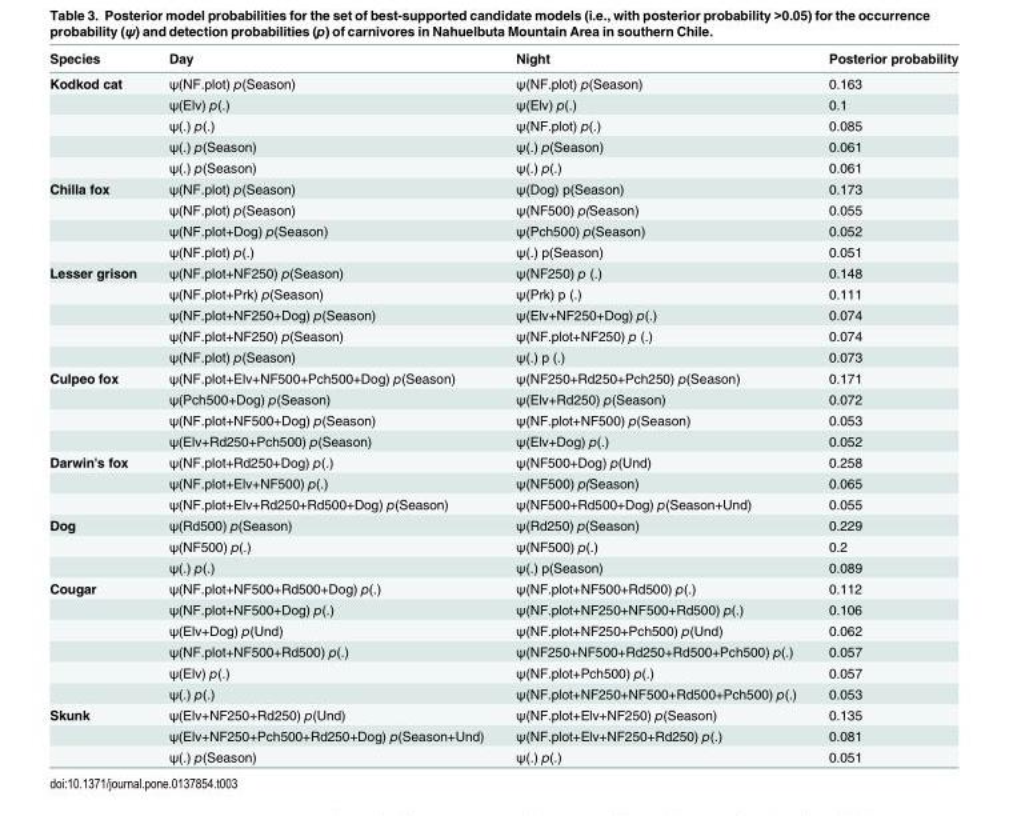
<table><thead><tr><td>Species</td><td>Day</td><td>Night</td><td>Posterior probability</td></tr></thead><tbody><tr><td rowspan="5">Kodkod cat</td><td>ψ(NF.plot) p(Season)</td><td>ψ(NF.plot) p(Season)</td><td>0.163</td></tr><tr><td>ψ(Elv) p(.)</td><td>ψ(Elv) p(.)</td><td>0.1</td></tr><tr><td>ψ(.) p(.)</td><td>ψ(NF.plot) p(.)</td><td>0.085</td></tr><tr><td>ψ(.) p(Season)</td><td>ψ(.) p(Season)</td><td>0.061</td></tr><tr><td>ψ(.) p(Season)</td><td>ψ(.) p(.)</td><td>0.061</td></tr><tr><td rowspan="4">Chilla fox</td><td>ψ(NF.plot) p(Season)</td><td>ψ(Dog) p(Season)</td><td>0.173</td></tr><tr><td>ψ(NF.plot) p(Season)</td><td>ψ(NF500) p(Season)</td><td>0.055</td></tr><tr><td>ψ(NF.plot+Dog) p(Season)</td><td>ψ(Pch500) p(Season)</td><td>0.052</td></tr><tr><td>ψ(NF.plot) p(.)</td><td>ψ(.) p(Season)</td><td>0.051</td></tr><tr><td rowspan="5">Lesser grison</td><td>ψ(NF.plot+NF250) p(Season)</td><td>ψ(NF250) p (.)</td><td>0.148</td></tr><tr><td>ψ(NF.plot+Prk) p(Season)</td><td>ψ(Prk) p (.)</td><td>0.111</td></tr><tr><td>ψ(NF.plot+NF250+Dog) p(Season)</td><td>ψ(Elv+NF250+Dog) p(.)</td><td>0.074</td></tr><tr><td>ψ(NF.plot+NF250) p(Season)</td><td>ψ(NF.plot+NF250) p (.)</td><td>0.074</td></tr><tr><td>ψ(NF.plot) p(Season)</td><td>ψ(.) p (.)</td><td>0.073</td></tr><tr><td rowspan="4">Culpeo fox</td><td>ψ(NF.plot+Elv+NF500+Pch500+Dog) p(Season)</td><td>ψ(NF250+Rd250+Pch250) p(Season)</td><td>0.171</td></tr><tr><td>ψ(Pch500+Dog) p(Season)</td><td>ψ(Elv+Rd250) p(Season)</td><td>0.072</td></tr><tr><td>ψ(NF.plot+NF500+Dog) p(Season)</td><td>ψ(NF.plot+NF500) p(Season)</td><td>0.053</td></tr><tr><td>ψ(Elv+Rd250+Pch500) p(Season)</td><td>ψ(Elv+Dog) p(.)</td><td>0.052</td></tr><tr><td rowspan="3">Darwin&#x27;s fox</td><td>ψ(NF.plot+Rd250+Dog) p(.)</td><td>ψ(NF500+Dog) p(Und)</td><td>0.258</td></tr><tr><td>ψ(NF.plot+Elv+NF500) p(.)</td><td>ψ(NF500) p(Season)</td><td>0.065</td></tr><tr><td>ψ(NF.plot+Elv+Rd250+Rd500+Dog) p(Season)</td><td>ψ(NF500+Rd500+Dog) p(Season+Und)</td><td>0.055</td></tr><tr><td rowspan="3">Dog</td><td>ψ(Rd500) p(Season)</td><td>ψ(Rd250) p(Season)</td><td>0.229</td></tr><tr><td>ψ(NF500) p(.)</td><td>ψ(NF500) p(.)</td><td>0.2</td></tr><tr><td>ψ(.) p(.)</td><td>ψ(.) p(Season)</td><td>0.089</td></tr><tr><td rowspan="6">Cougar</td><td>ψ(NF.plot+NF500+Rd500+Dog) p(.)</td><td>ψ(NF.plot+NF500+Rd500) p(.)</td><td>0.112</td></tr><tr><td>ψ(NF.plot+NF500+Dog) p(.)</td><td>ψ(NF.plot+NF250+NF500+Rd500) p(.)</td><td>0.106</td></tr><tr><td>ψ(Elv+Dog) p(Und)</td><td>ψ(NF.plot+NF250+Pch500) p(Und)</td><td>0.062</td></tr><tr><td>ψ(NF.plot+NF500+Rd500) p(.)</td><td>ψ(NF250+NF500+Rd250+Rd500+Pch500) p(.)</td><td>0.057</td></tr><tr><td>ψ(Elv) p(.)</td><td>ψ(NF.plot+Pch500) p(.)</td><td>0.057</td></tr><tr><td>ψ(.) p(.)</td><td>ψ(NF.plot+NF250+NF500+Rd500+Pch500) p(.)</td><td>0.053</td></tr><tr><td rowspan="3">Skunk</td><td>ψ(Elv+NF250+Rd250) p(Und)</td><td>ψ(NF.plot+Elv+NF250) p(Season)</td><td>0.135</td></tr><tr><td>ψ(Elv+NF250+Pch500+Rd250+Dog) p(Season+Und)</td><td>ψ(NF.plot+Elv+NF250+Rd250) p(.)</td><td>0.081</td></tr><tr><td>ψ(.) p(Season)</td><td>ψ(.) p(.)</td><td>0.051</td></tr></tbody></table>